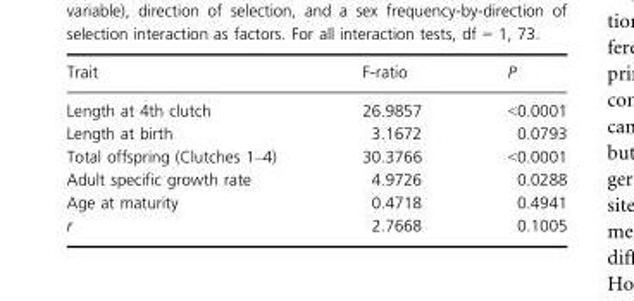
<table><thead><tr><td>Trait</td><td>F-ratio</td><td>P</td></tr></thead><tbody><tr><td>Length at 4th clutch</td><td>26.9857</td><td>&lt;0.0001</td></tr><tr><td>Length at birth</td><td>3.1672</td><td>0.0793</td></tr><tr><td>Total offspring (Clutches 1–4)</td><td>30.3766</td><td>&lt;0.0001</td></tr><tr><td>Adult specific growth rate</td><td>4.9726</td><td>0.0288</td></tr><tr><td>Age at maturity</td><td>0.4718</td><td>0.4941</td></tr><tr><td>r</td><td>2.7668</td><td>0.1005</td></tr></tbody></table>